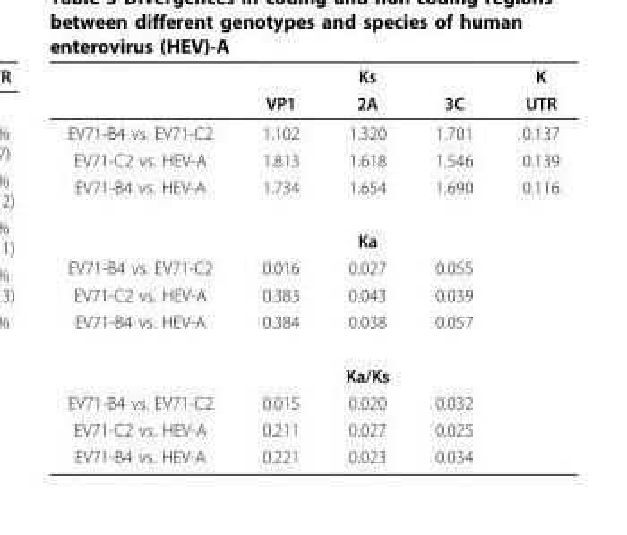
<table><thead><tr><td rowspan="2"></td><td colspan="3">Ks</td><td rowspan="2">K UTR</td></tr><tr><td>VP1</td><td>2A</td><td>3C</td></tr></thead><tbody><tr><td>EV71-B4 vs. EV71-C2</td><td>1.102</td><td>1.320</td><td>1.701</td><td>0.137</td></tr><tr><td>EV71-C2 vs. HEV-A</td><td>1.813</td><td>1.618</td><td>1.546</td><td>0.139</td></tr><tr><td rowspan="2">EV71-B4 vs. HEV-A</td><td>1.734</td><td>1.654</td><td>1.690</td><td>0.116</td></tr><tr><td colspan="3">Ka</td><td></td></tr><tr><td>EV71-B4 vs. EV71-C2</td><td>0.016</td><td>0.027</td><td>0.055</td><td></td></tr><tr><td>EV71-C2 vs. HEV-A</td><td>0.383</td><td>0.043</td><td>0.039</td><td></td></tr><tr><td rowspan="2">EV71-B4 vs. HEV-A</td><td>0.384</td><td>0.038</td><td>0.057</td><td></td></tr><tr><td colspan="3">Ka/Ks</td><td></td></tr><tr><td>EV71-B4 vs. EV71-C2</td><td>0.015</td><td>0.020</td><td>0.032</td><td></td></tr><tr><td>EV71-C2 vs. HEV-A</td><td>0.211</td><td>0.027</td><td>0.025</td><td></td></tr><tr><td>EV71-B4 vs. HEV-A</td><td>0.221</td><td>0.023</td><td>0.034</td><td></td></tr></tbody></table>